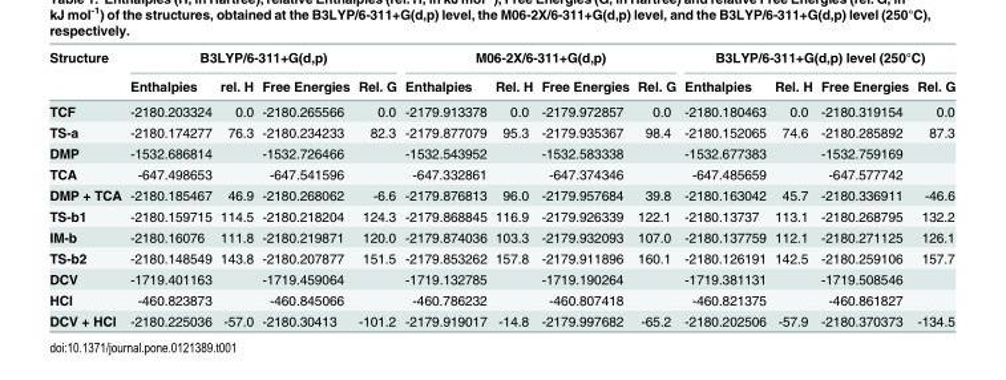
<table><thead><tr><td rowspan="2">Structure</td><td colspan="4">B3LYP/6-311+G(d,p)</td><td colspan="4">M06-2X/6-311+G(d,p)</td><td colspan="4">B3LYP/6-311+G(d,p) level (250°C)</td></tr><tr><td>Enthalpies</td><td>rel. H</td><td>Free Energies</td><td>Rel. G</td><td>Enthalpies</td><td>Rel. H</td><td>Free Energies</td><td>Rel. G</td><td>Enthalpies</td><td>Rel. H</td><td>Free Energies</td><td>Rel. G</td></tr></thead><tbody><tr><td>TCF</td><td>-2180.203324</td><td>0.0</td><td>-2180.265566</td><td>0.0</td><td>-2179.913378</td><td>0.0</td><td>-2179.972857</td><td>0.0</td><td>-2180.180463</td><td>0.0</td><td>-2180.319154</td><td>0.0</td></tr><tr><td>TS-a</td><td>-2180.174277</td><td>76.3</td><td>-2180.234233</td><td>82.3</td><td>-2179.877079</td><td>95.3</td><td>-2179.935367</td><td>98.4</td><td>-2180.152065</td><td>74.6</td><td>-2180.285892</td><td>87.3</td></tr><tr><td>DMP</td><td>-1532.686814</td><td></td><td>-1532.726466</td><td></td><td>-1532.543952</td><td></td><td>-1532.583338</td><td></td><td>-1532.677383</td><td></td><td>-1532.759169</td><td></td></tr><tr><td>TCA</td><td>-647.498653</td><td></td><td>-647.541596</td><td></td><td>-647.332861</td><td></td><td>-647.374346</td><td></td><td>-647.485659</td><td></td><td>-647.577742</td><td></td></tr><tr><td>DMP + TCA</td><td>-2180.185467</td><td>46.9</td><td>-2180.268062</td><td>-6.6</td><td>-2179.876813</td><td>96.0</td><td>-2179.957684</td><td>39.8</td><td>-2180.163042</td><td>45.7</td><td>-2180.336911</td><td>-46.6</td></tr><tr><td>TS-b1</td><td>-2180.159715</td><td>114.5</td><td>-2180.218204</td><td>124.3</td><td>-2179.868845</td><td>116.9</td><td>-2179.926339</td><td>122.1</td><td>-2180.13737</td><td>113.1</td><td>-2180.268795</td><td>132.2</td></tr><tr><td>IM-b</td><td>-2180.16076</td><td>111.8</td><td>-2180.219871</td><td>120.0</td><td>-2179.874036</td><td>103.3</td><td>-2179.932093</td><td>107.0</td><td>-2180.137759</td><td>112.1</td><td>-2180.271125</td><td>126.1</td></tr><tr><td>TS-b2</td><td>-2180.148549</td><td>143.8</td><td>-2180.207877</td><td>151.5</td><td>-2179.853262</td><td>157.8</td><td>-2179.911896</td><td>160.1</td><td>-2180.126191</td><td>142.5</td><td>-2180.259106</td><td>157.7</td></tr><tr><td>DCV</td><td>-1719.401163</td><td></td><td>-1719.459064</td><td></td><td>-1719.132785</td><td></td><td>-1719.190264</td><td></td><td>-1719.381131</td><td></td><td>-1719.508546</td><td></td></tr><tr><td>HCl</td><td>-460.823873</td><td></td><td>-460.845066</td><td></td><td>-460.786232</td><td></td><td>-460.807418</td><td></td><td>-460.821375</td><td></td><td>-460.861827</td><td></td></tr><tr><td>DCV + HCl</td><td>-2180.225036</td><td>-57.0</td><td>-2180.30413</td><td>-101.2</td><td>-2179.919017</td><td>-14.8</td><td>-2179.997682</td><td>-65.2</td><td>-2180.202506</td><td>-57.9</td><td>-2180.370373</td><td>-134.5</td></tr></tbody></table>